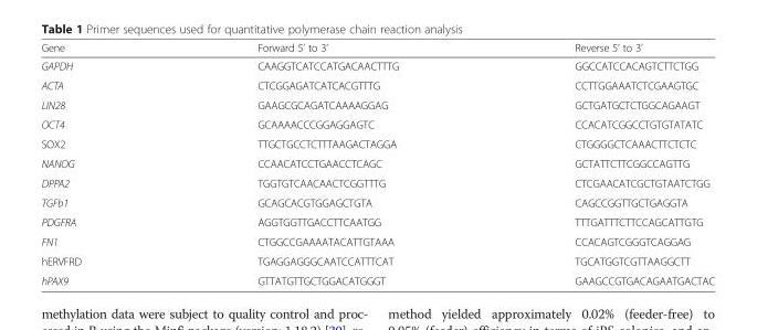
<table><thead><tr><td>Gene</td><td>Forward 5’ to 3’</td><td>Reverse 5’ to 3’</td></tr></thead><tbody><tr><td>GAPDH</td><td>CAAGGTCATCCATGACAACTTTG</td><td>GGCCATCCACAGTCTTCTGG</td></tr><tr><td>ACTA</td><td>CTCGGAGATCATCACGTTTG</td><td>CCTTGGAAATCTCGAAGTGC</td></tr><tr><td>LIN28</td><td>GAAGCGCAGATCAAAAGGAG</td><td>GCTGATGCTCTGGCAGAAGT</td></tr><tr><td>OCT4</td><td>GCAAAACCCGGAGGAGTC</td><td>CCACATCGGCCTGTGTATATC</td></tr><tr><td>SOX2</td><td>TTGCTGCCTCTTTAAGACTAGGA</td><td>CTGGGGCTCAAACTTCTCTC</td></tr><tr><td>NANOG</td><td>CCAACATCCTGAACCTCAGC</td><td>GCTATTCTTCGGCCAGTTG</td></tr><tr><td>DPPA2</td><td>TGGTGTCAACAACTCGGTTTG</td><td>CTCGAACATCGCTGTAATCTGG</td></tr><tr><td>TGFb1</td><td>GCAGCACGTGGAGCTGTA</td><td>CAGCCGGTTGCTGAGGTA</td></tr><tr><td>PDGFRA</td><td>AGGTGGTTGACCTTCAATGG</td><td>TTTGATTTCTTCCAGCATTGTG</td></tr><tr><td>FN1</td><td>CTGGCCGAAAATACATTGTAAA</td><td>CCACAGTCGGGTCAGGAG</td></tr><tr><td>hERVFRD</td><td>TGAGGAGGGCAATCCATTTCAT</td><td>TGCATGGTCGTTAAGGCTT</td></tr><tr><td>hPAX9</td><td>GTTATGTTGCTGGACATGGGT</td><td>GAAGCCGTGACAGAATGACTAC</td></tr></tbody></table>